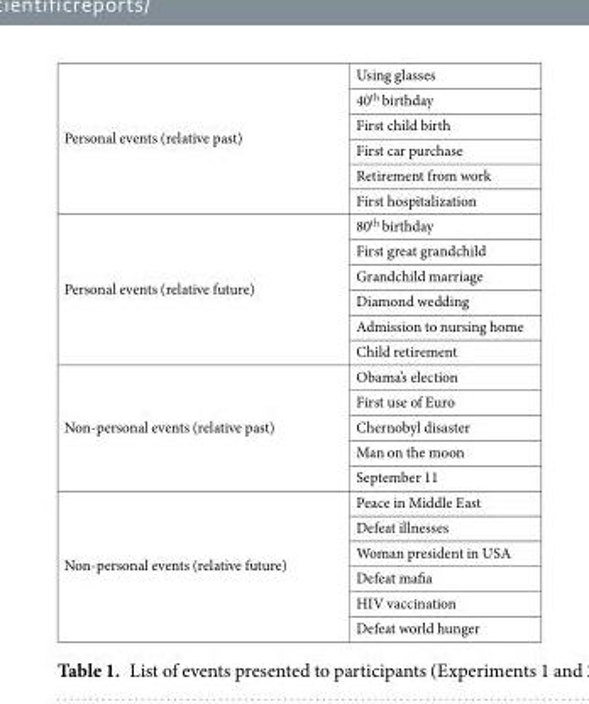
<table><tbody><tr><td rowspan="6">Personal events (relative past)</td><td>Using glasses</td></tr><tr><td>40<sup>th</sup> birthday</td></tr><tr><td>First child birth</td></tr><tr><td>First car purchase</td></tr><tr><td>Retirement from work</td></tr><tr><td>First hospitalization</td></tr><tr><td rowspan="6">Personal events (relative future)</td><td>80<sup>th</sup> birthday</td></tr><tr><td>First great grandchild</td></tr><tr><td>Grandchild marriage</td></tr><tr><td>Diamond wedding</td></tr><tr><td>Admission to nursing home</td></tr><tr><td>Child retirement</td></tr><tr><td rowspan="5">Non-personal events (relative past)</td><td>Obama’s election</td></tr><tr><td>First use of Euro</td></tr><tr><td>Chernobyl disaster</td></tr><tr><td>Man on the moon</td></tr><tr><td>September 11</td></tr><tr><td rowspan="6">Non-personal events (relative future)</td><td>Peace in Middle East</td></tr><tr><td>Defeat illnesses</td></tr><tr><td>Woman president in USA</td></tr><tr><td>Defeat mafia</td></tr><tr><td>HIV vaccination</td></tr><tr><td>Defeat world hunger</td></tr></tbody></table>